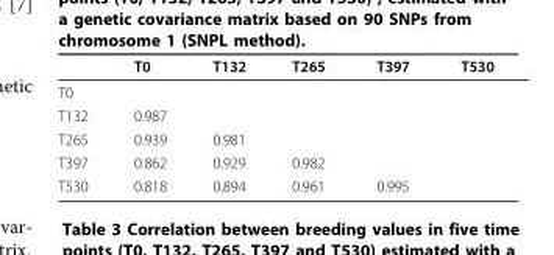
<table><thead><tr><td></td><td>T0</td><td>T132</td><td>T265</td><td>T397</td><td>T530</td></tr></thead><tbody><tr><td colspan="6">T0</td></tr><tr><td>T132</td><td>0.987</td><td></td><td></td><td></td><td></td></tr><tr><td>T265</td><td>0.939</td><td>0.981</td><td></td><td></td><td></td></tr><tr><td>T397</td><td>0.862</td><td>0.929</td><td>0.982</td><td></td><td></td></tr><tr><td>T530</td><td>0.818</td><td>0.894</td><td>0.961</td><td>0.995</td><td></td></tr></tbody></table>